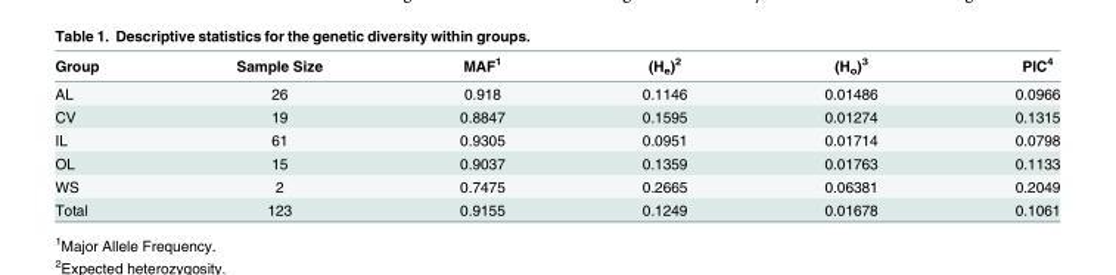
<table><thead><tr><td>Group</td><td>Sample Size</td><td>MAF<sup>1</sup></td><td>(H<sub>e</sub>)<sup>2</sup></td><td>(H<sub>o</sub>)<sup>3</sup></td><td>PIC<sup>4</sup></td></tr></thead><tbody><tr><td>AL</td><td>26</td><td>0.918</td><td>0.1146</td><td>0.01486</td><td>0.0966</td></tr><tr><td>CV</td><td>19</td><td>0.8847</td><td>0.1595</td><td>0.01274</td><td>0.1315</td></tr><tr><td>IL</td><td>61</td><td>0.9305</td><td>0.0951</td><td>0.01714</td><td>0.0798</td></tr><tr><td>OL</td><td>15</td><td>0.9037</td><td>0.1359</td><td>0.01763</td><td>0.1133</td></tr><tr><td>WS</td><td>2</td><td>0.7475</td><td>0.2665</td><td>0.06381</td><td>0.2049</td></tr><tr><td>Total</td><td>123</td><td>0.9155</td><td>0.1249</td><td>0.01678</td><td>0.1061</td></tr></tbody></table>